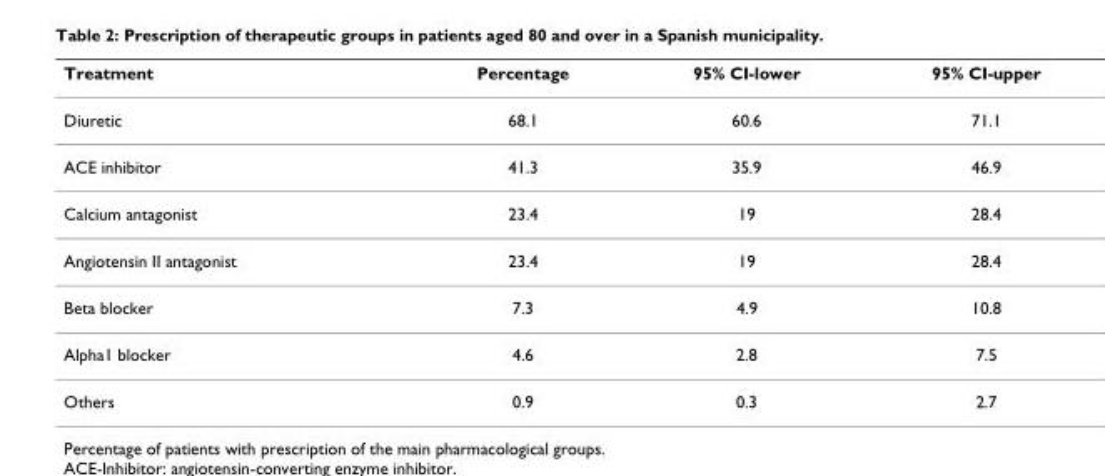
<table><thead><tr><td>Treatment</td><td>Percentage</td><td>95% CI-lower</td><td>95% CI-upper</td></tr></thead><tbody><tr><td>Diuretic</td><td>68.1</td><td>60.6</td><td>71.1</td></tr><tr><td>ACE inhibitor</td><td>41.3</td><td>35.9</td><td>46.9</td></tr><tr><td>Calcium antagonist</td><td>23.4</td><td>19</td><td>28.4</td></tr><tr><td>Angiotensin II antagonist</td><td>23.4</td><td>19</td><td>28.4</td></tr><tr><td>Beta blocker</td><td>7.3</td><td>4.9</td><td>10.8</td></tr><tr><td>Alpha1 blocker</td><td>4.6</td><td>2.8</td><td>7.5</td></tr><tr><td>Others</td><td>0.9</td><td>0.3</td><td>2.7</td></tr></tbody></table>